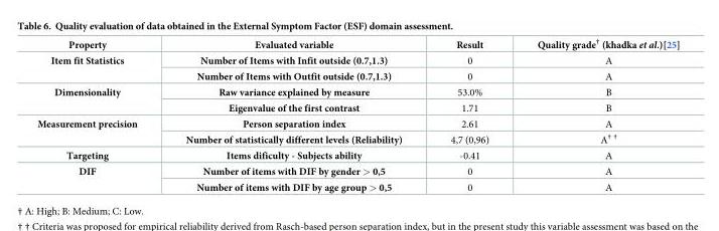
<table><thead><tr><td>Property</td><td>Evaluated variable</td><td>Result</td><td>Quality grade† (khadka et al.)[25]</td></tr></thead><tbody><tr><td rowspan="2">Item fit Statistics</td><td>Number of Items with Infit outside (0.7,1.3)</td><td>0</td><td>A</td></tr><tr><td>Number of Items with Outfit outside (0.7,1.3)</td><td>0</td><td>A</td></tr><tr><td rowspan="2">Dimensionality</td><td>Raw variance explained by measure</td><td>53.0%</td><td>B</td></tr><tr><td>Eigenvalue of the first contrast</td><td>1.71</td><td>B</td></tr><tr><td rowspan="2">Measurement precision</td><td>Person separation index</td><td>2.61</td><td>A</td></tr><tr><td>Number of statistically different levels (Reliability)</td><td>4,7 (0,96)</td><td>A† †</td></tr><tr><td>Targeting</td><td>Items dificulty - Subjects ability</td><td>-0.41</td><td>A</td></tr><tr><td rowspan="2">DIF</td><td>Number of items with DIF by gender &gt; 0,5</td><td>0</td><td>A</td></tr><tr><td>Number of items with DIF by age group &gt; 0,5</td><td>0</td><td>A</td></tr></tbody></table>